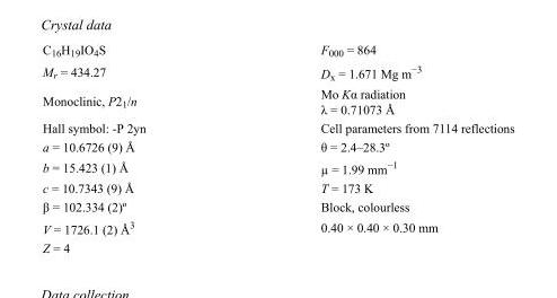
<table><tbody><tr><td>C<sub>16</sub>H<sub>19</sub>IO<sub>4</sub>S</td><td>F000 = 864</td></tr><tr><td>M<sub>r</sub> = 434.27</td><td>D<sub>x</sub> = 1.671 Mg m<sup>−3</sup></td></tr><tr><td>Monoclinic, P2<sub>1</sub>/n</td><td>Mo Kα radiation λ = 0.71073 Å</td></tr><tr><td>Hall symbol: -P 2yn</td><td>Cell parameters from 7114 reflections</td></tr><tr><td>a = 10.6726 (9) Å</td><td>θ = 2.4–28.3º</td></tr><tr><td>b = 15.423 (1) Å</td><td>µ = 1.99 mm<sup>−1</sup></td></tr><tr><td>c = 10.7343 (9) Å</td><td>T = 173 K</td></tr><tr><td>β = 102.334 (2)º</td><td>Block, colourless</td></tr><tr><td>V = 1726.1 (2) Å<sup>3</sup></td><td>0.40 × 0.40 × 0.30 mm</td></tr><tr><td>Z = 4</td><td></td></tr></tbody></table>